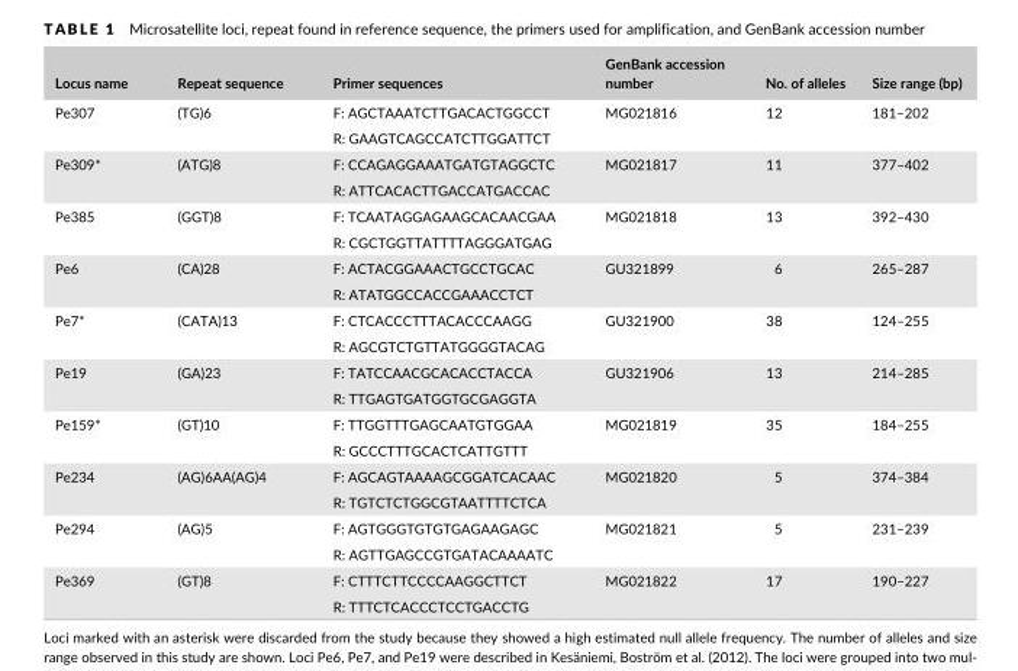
<table><thead><tr><td>Locus name</td><td>Repeat sequence</td><td>Primer sequences</td><td>GenBank accession number</td><td>No. of alleles</td><td>Size range (bp)</td></tr></thead><tbody><tr><td rowspan="2">Pe307</td><td rowspan="2">(TG)6</td><td>F: AGCTAAATCTTGACACTGGCCT</td><td rowspan="2">MG021816</td><td rowspan="2">12</td><td rowspan="2">181–202</td></tr><tr><td>R: GAAGTCAGCCATCTTGGATTCT</td></tr><tr><td rowspan="2">Pe309*</td><td rowspan="2">(ATG)8</td><td>F: CCAGAGGAAATGATGTAGGCTC</td><td rowspan="2">MG021817</td><td rowspan="2">11</td><td rowspan="2">377–402</td></tr><tr><td>R: ATTCACACTTGACCATGACCAC</td></tr><tr><td rowspan="2">Pe385</td><td rowspan="2">(GGT)8</td><td>F: TCAATAGGAGAAGCACAACGAA</td><td rowspan="2">MG021818</td><td rowspan="2">13</td><td rowspan="2">392–430</td></tr><tr><td>R: CGCTGGTTATTTTAGGGATGAG</td></tr><tr><td rowspan="2">Pe6</td><td rowspan="2">(CA)28</td><td>F: ACTACGGAAACTGCCTGCAC</td><td rowspan="2">GU321899</td><td rowspan="2">6</td><td rowspan="2">265–287</td></tr><tr><td>R: ATATGGCCACCGAAACCTCT</td></tr><tr><td rowspan="2">Pe7*</td><td rowspan="2">(CATA)13</td><td>F: CTCACCCTTTACACCCAAGG</td><td rowspan="2">GU321900</td><td rowspan="2">38</td><td rowspan="2">124–255</td></tr><tr><td>R: AGCGTCTGTTATGGGGTACAG</td></tr><tr><td rowspan="2">Pe19</td><td rowspan="2">(GA)23</td><td>F: TATCCAACGCACACCTACCA</td><td rowspan="2">GU321906</td><td rowspan="2">13</td><td rowspan="2">214–285</td></tr><tr><td>R: TTGAGTGATGGTGCGAGGTA</td></tr><tr><td rowspan="2">Pe159*</td><td rowspan="2">(GT)10</td><td>F: TTGGTTTGAGCAATGTGGAA</td><td rowspan="2">MG021819</td><td rowspan="2">35</td><td rowspan="2">184–255</td></tr><tr><td>R: GCCCTTTGCACTCATTGTTT</td></tr><tr><td rowspan="2">Pe234</td><td rowspan="2">(AG)6AA(AG)4</td><td>F: AGCAGTAAAAGCGGATCACAAC</td><td rowspan="2">MG021820</td><td rowspan="2">5</td><td rowspan="2">374–384</td></tr><tr><td>R: TGTCTCTGGCGTAATTTTCTCA</td></tr><tr><td rowspan="2">Pe294</td><td rowspan="2">(AG)5</td><td>F: AGTGGGTGTGTGAGAAGAGC</td><td rowspan="2">MG021821</td><td rowspan="2">5</td><td rowspan="2">231–239</td></tr><tr><td>R: AGTTGAGCCGTGATACAAAATC</td></tr><tr><td rowspan="2">Pe369</td><td rowspan="2">(GT)8</td><td>F: CTTTCTTCCCCAAGGCTTCT</td><td rowspan="2">MG021822</td><td rowspan="2">17</td><td rowspan="2">190–227</td></tr><tr><td>R: TTTCTCACCCTCCTGACCTG</td></tr></tbody></table>